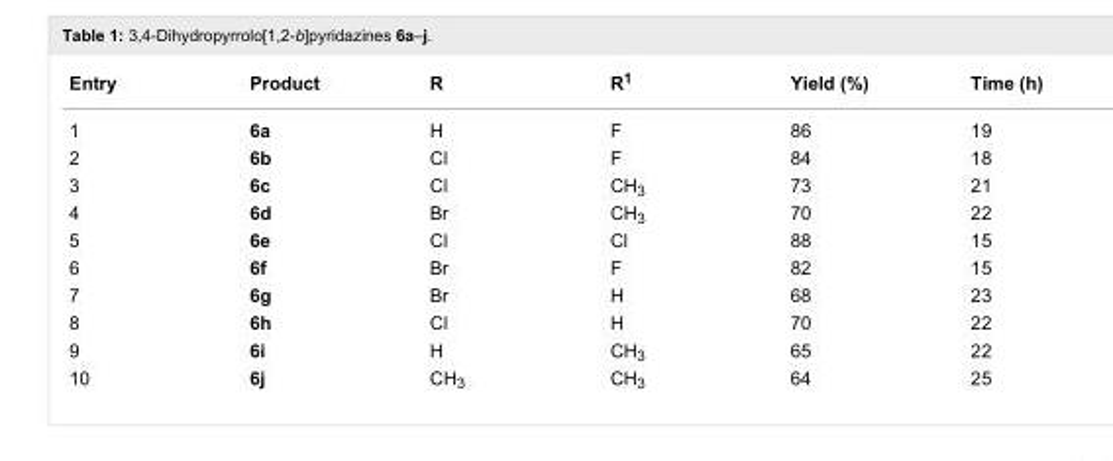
<table><tbody><tr><td>Entry</td><td>Product</td><td>R</td><td>R<sup>1</sup></td><td>Yield (%)</td><td>Time (h)</td></tr><tr><td>1</td><td>6a</td><td>H</td><td>F</td><td>86</td><td>19</td></tr><tr><td>2</td><td>6b</td><td>Cl</td><td>F</td><td>84</td><td>18</td></tr><tr><td>3</td><td>6c</td><td>Cl</td><td>CH<sub>3</sub></td><td>73</td><td>21</td></tr><tr><td>4</td><td>6d</td><td>Br</td><td>CH<sub>3</sub></td><td>70</td><td>22</td></tr><tr><td>5</td><td>6e</td><td>Cl</td><td>Cl</td><td>88</td><td>15</td></tr><tr><td>6</td><td>6f</td><td>Br</td><td>F</td><td>82</td><td>15</td></tr><tr><td>7</td><td>6g</td><td>Br</td><td>H</td><td>68</td><td>23</td></tr><tr><td>8</td><td>6h</td><td>Cl</td><td>H</td><td>70</td><td>22</td></tr><tr><td>9</td><td>6i</td><td>H</td><td>CH<sub>3</sub></td><td>65</td><td>22</td></tr><tr><td>10</td><td>6j</td><td>CH<sub>3</sub></td><td>CH<sub>3</sub></td><td>64</td><td>25</td></tr></tbody></table>